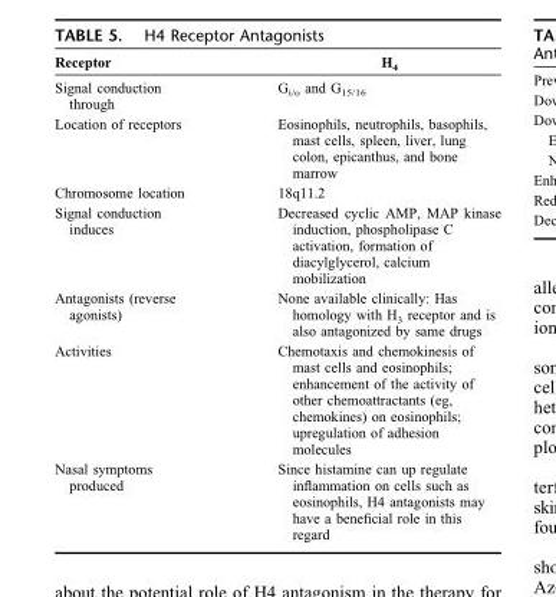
<table><thead><tr><td>Receptor</td><td>H<sub>4</sub></td></tr></thead><tbody><tr><td>Signal conduction through</td><td>G<sub>i/o</sub> and G<sub>15/16</sub></td></tr><tr><td>Location of receptors</td><td>Eosinophils, neutrophils, basophils, mast cells, spleen, liver, lung colon, epicanthus, and bone marrow</td></tr><tr><td>Chromosome location</td><td>18q11.2</td></tr><tr><td>Signal conduction induces</td><td>Decreased cyclic AMP, MAP kinase induction, phospholipase C activation, formation of diacylglycerol, calcium mobilization</td></tr><tr><td>Antagonists (reverse agonists)</td><td>None available clinically: Has homology with H<sub>3</sub> receptor and is also antagonized by same drugs</td></tr><tr><td>Activities</td><td>Chemotaxis and chemokinesis of mast cells and eosinophils; enhancement of the activity of other chemoattractants (eg, chemokines) on eosinophils; upregulation of adhesion molecules</td></tr><tr><td>Nasal symptoms produced</td><td>Since histamine can up regulate inflammation on cells such as eosinophils, H4 antagonists may have a beneficial role in this regard</td></tr></tbody></table>